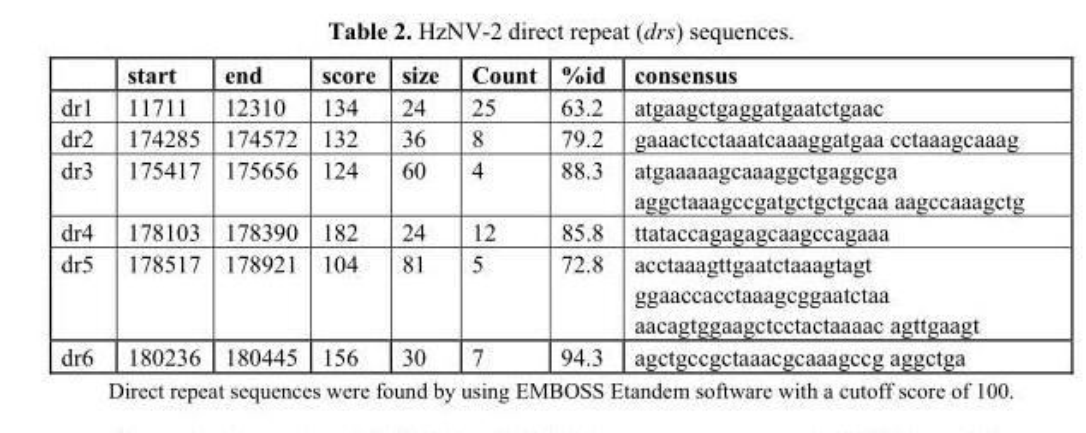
<table><thead><tr><td></td><td>start</td><td>end</td><td>score</td><td>size</td><td>Count</td><td>%id</td><td>consensus</td></tr></thead><tbody><tr><td>dr1</td><td>11711</td><td>12310</td><td>134</td><td>24</td><td>25</td><td>63.2</td><td>atgaagctgaggatgaatctgaac</td></tr><tr><td>dr2</td><td>174285</td><td>174572</td><td>132</td><td>36</td><td>8</td><td>79.2</td><td>gaaactcctaaatcaaaggatgaa cctaaagcaaag</td></tr><tr><td>dr3</td><td>175417</td><td>175656</td><td>124</td><td>60</td><td>4</td><td>88.3</td><td>atgaaaaagcaaaggctgaggcga aggctaaagccgatgctgctgcaa aagccaaagctg</td></tr><tr><td>dr4</td><td>178103</td><td>178390</td><td>182</td><td>24</td><td>12</td><td>85.8</td><td>ttataccagagagcaagccagaaa</td></tr><tr><td>dr5</td><td>178517</td><td>178921</td><td>104</td><td>81</td><td>5</td><td>72.8</td><td>acctaaagttgaatctaaagtagt ggaaccacctaaagcggaatctaa aacagtggaagctcctactaaaac agttgaagt</td></tr><tr><td>dr6</td><td>180236</td><td>180445</td><td>156</td><td>30</td><td>7</td><td>94.3</td><td>agctgccgctaaacgcaaagccg aggctga</td></tr></tbody></table>